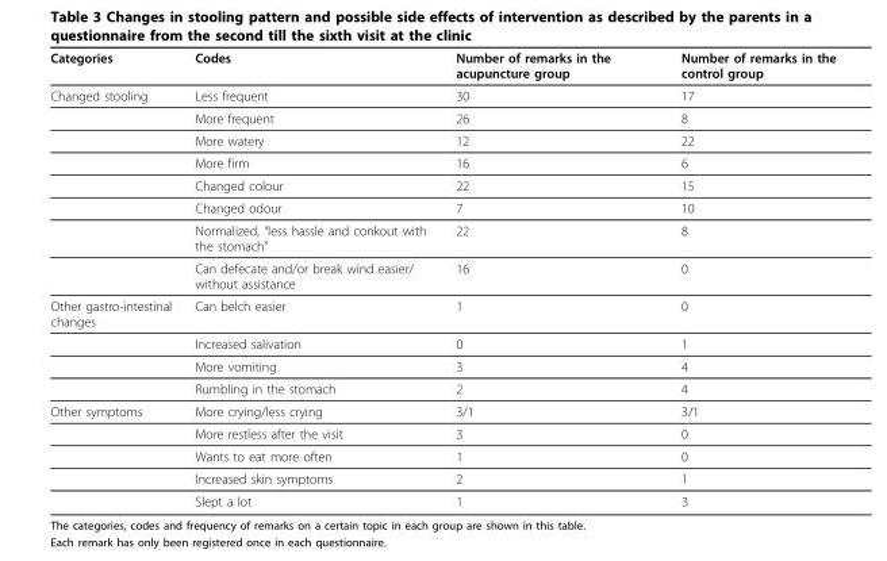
<table><thead><tr><td>Categories</td><td>Codes</td><td>Number of remarks in the acupuncture group</td><td>Number of remarks in the control group</td></tr></thead><tbody><tr><td rowspan="8">Changed stooling</td><td>Less frequent</td><td>30</td><td>17</td></tr><tr><td>More frequent</td><td>26</td><td>8</td></tr><tr><td>More watery</td><td>12</td><td>22</td></tr><tr><td>More firm</td><td>16</td><td>6</td></tr><tr><td>Changed colour</td><td>22</td><td>15</td></tr><tr><td>Changed odour</td><td>7</td><td>10</td></tr><tr><td>Normalized, “less hassle and conkout with the stomach”</td><td>22</td><td>8</td></tr><tr><td>Can defecate and/or break wind easier/ without assistance</td><td>16</td><td>0</td></tr><tr><td rowspan="4">Other gastro-intestinal changes</td><td>Can belch easier</td><td>1</td><td>0</td></tr><tr><td>Increased salivation</td><td>0</td><td>1</td></tr><tr><td>More vomiting</td><td>3</td><td>4</td></tr><tr><td>Rumbling in the stomach</td><td>2</td><td>4</td></tr><tr><td rowspan="5">Other symptoms</td><td>More crying/less crying</td><td>3/1</td><td>3/1</td></tr><tr><td>More restless after the visit</td><td>3</td><td>0</td></tr><tr><td>Wants to eat more often</td><td>1</td><td>0</td></tr><tr><td>Increased skin symptoms</td><td>2</td><td>1</td></tr><tr><td>Slept a lot</td><td>1</td><td>3</td></tr></tbody></table>